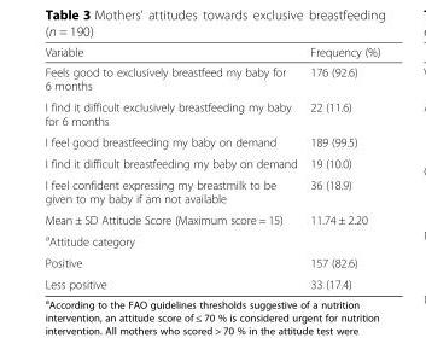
<table><thead><tr><td>Variable</td><td>Frequency (%)</td></tr></thead><tbody><tr><td>Feels good to exclusively breastfeed my baby for 6 months</td><td>176 (92.6)</td></tr><tr><td>I find it difficult exclusively breastfeeding my baby for 6 months</td><td>22 (11.6)</td></tr><tr><td>I feel good breastfeeding my baby on demand</td><td>189 (99.5)</td></tr><tr><td>I find it difficult breastfeeding my baby on demand</td><td>19 (10.0)</td></tr><tr><td>I feel confident expressing my breastmilk to be given to my baby if am not available</td><td>36 (18.9)</td></tr><tr><td>Mean ± SD Attitude Score (Maximum score = 15)</td><td>11.74 ± 2.20</td></tr><tr><td colspan="2"><sup>a</sup>Attitude category</td></tr><tr><td>Positive</td><td>157 (82.6)</td></tr><tr><td>Less positive</td><td>33 (17.4)</td></tr></tbody></table>